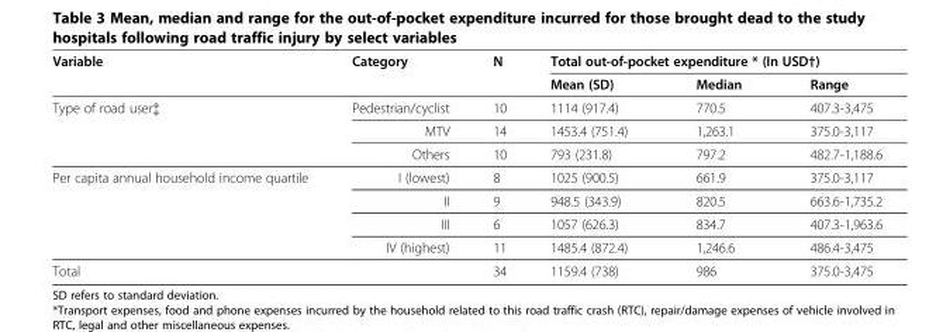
<table><thead><tr><td rowspan="2">Variable</td><td rowspan="2">Category</td><td rowspan="2">N</td><td colspan="3">Total out-of-pocket expenditure * (In USD†)</td></tr><tr><td>Mean (SD)</td><td>Median</td><td>Range</td></tr></thead><tbody><tr><td rowspan="3">Type of road user‡</td><td>Pedestrian/cyclist</td><td>10</td><td>1114 (917.4)</td><td>770.5</td><td>407.3-3,475</td></tr><tr><td>MTV</td><td>14</td><td>1453.4 (751.4)</td><td>1,263.1</td><td>375.0-3,117</td></tr><tr><td>Others</td><td>10</td><td>793 (231.8)</td><td>797.2</td><td>482.7-1,188.6</td></tr><tr><td rowspan="4">Per capita annual household income quartile</td><td>I (lowest)</td><td>8</td><td>1025 (900.5)</td><td>661.9</td><td>375.0-3,117</td></tr><tr><td>II</td><td>9</td><td>948.5 (343.9)</td><td>820.5</td><td>663.6-1,735.2</td></tr><tr><td>III</td><td>6</td><td>1057 (626.3)</td><td>834.7</td><td>407.3-1,963.6</td></tr><tr><td>IV (highest)</td><td>11</td><td>1485.4 (872.4)</td><td>1,246.6</td><td>486.4-3,475</td></tr><tr><td>Total</td><td></td><td>34</td><td>1159.4 (738)</td><td>986</td><td>375.0-3,475</td></tr></tbody></table>